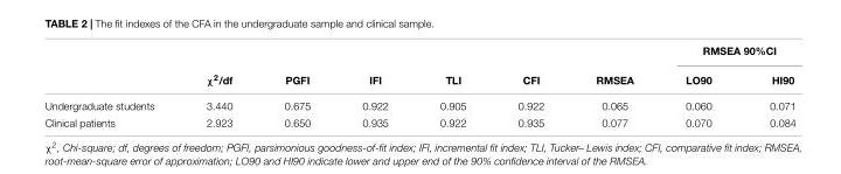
<table><thead><tr><td rowspan="2"></td><td rowspan="2">χ<sup>2</sup>/df</td><td rowspan="2">PGFI</td><td rowspan="2">IFI</td><td rowspan="2">TLI</td><td rowspan="2">CFI</td><td rowspan="2">RMSEA</td><td colspan="2">RMSEA 90%CI</td></tr><tr><td>LO90</td><td>HI90</td></tr></thead><tbody><tr><td>Undergraduate students</td><td>3.440</td><td>0.675</td><td>0.922</td><td>0.905</td><td>0.922</td><td>0.065</td><td>0.060</td><td>0.071</td></tr><tr><td>Clinical patients</td><td>2.923</td><td>0.650</td><td>0.935</td><td>0.922</td><td>0.935</td><td>0.077</td><td>0.070</td><td>0.084</td></tr></tbody></table>